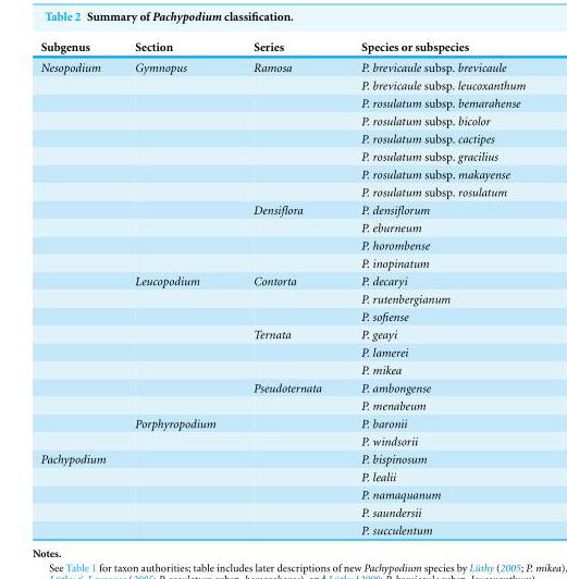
<table><thead><tr><td>Subgenus</td><td>Section</td><td>Series</td><td>Species or subspecies</td></tr></thead><tbody><tr><td rowspan="22">Nesopodium</td><td>Gymnopus</td><td>Ramosa</td><td>P. brevicaule subsp. brevicaule</td></tr><tr><td></td><td></td><td>P. brevicaule subsp. leucoxanthum</td></tr><tr><td></td><td></td><td>P. rosulatum subsp. bemarahense</td></tr><tr><td></td><td></td><td>P. rosulatum subsp. bicolor</td></tr><tr><td></td><td></td><td>P. rosulatum subsp. cactipes</td></tr><tr><td></td><td></td><td>P. rosulatum subsp. gracilius</td></tr><tr><td></td><td></td><td>P. rosulatum subsp. makayense</td></tr><tr><td></td><td></td><td>P. rosulatum subsp. rosulatum</td></tr><tr><td></td><td>Densiflora</td><td>P. densiflorum</td></tr><tr><td></td><td></td><td>P. eburneum</td></tr><tr><td></td><td></td><td>P. horombense</td></tr><tr><td></td><td></td><td>P. inopinatum</td></tr><tr><td>Leucopodium</td><td>Contorta</td><td>P. decaryi</td></tr><tr><td></td><td></td><td>P. rutenbergianum</td></tr><tr><td></td><td></td><td>P. sofiense</td></tr><tr><td></td><td>Ternata</td><td>P. geayi</td></tr><tr><td></td><td></td><td>P. lamerei</td></tr><tr><td></td><td></td><td>P. mikea</td></tr><tr><td></td><td>Pseudoternata</td><td>P. ambongense</td></tr><tr><td></td><td></td><td>P. menabeum</td></tr><tr><td>Porphyropodium</td><td></td><td>P. baronii</td></tr><tr><td></td><td></td><td>P. windsorii</td></tr><tr><td rowspan="5">Pachypodium</td><td></td><td></td><td>P. bispinosum</td></tr><tr><td></td><td></td><td>P. lealii</td></tr><tr><td></td><td></td><td>P. namaquanum</td></tr><tr><td></td><td></td><td>P. saundersii</td></tr><tr><td></td><td></td><td>P. succulentum</td></tr></tbody></table>